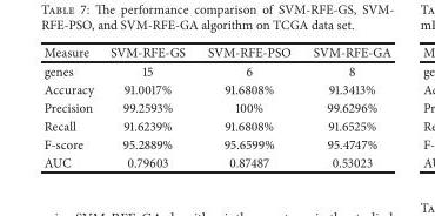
<table><thead><tr><td>Measure</td><td>SVM-RFE-GS</td><td>SVM-RFE-PSO</td><td>SVM-RFE-GA</td></tr></thead><tbody><tr><td>genes</td><td>15</td><td>6</td><td>8</td></tr><tr><td>Accuracy</td><td>91.0017%</td><td>91.6808%</td><td>91.3413%</td></tr><tr><td>Precision</td><td>99.2593%</td><td>100%</td><td>99.6296%</td></tr><tr><td>Recall</td><td>91.6239%</td><td>91.6808%</td><td>91.6525%</td></tr><tr><td>F-score</td><td>95.2889%</td><td>95.6599%</td><td>95.4747%</td></tr><tr><td>AUC</td><td>0.79603</td><td>0.87487</td><td>0.53023</td></tr></tbody></table>